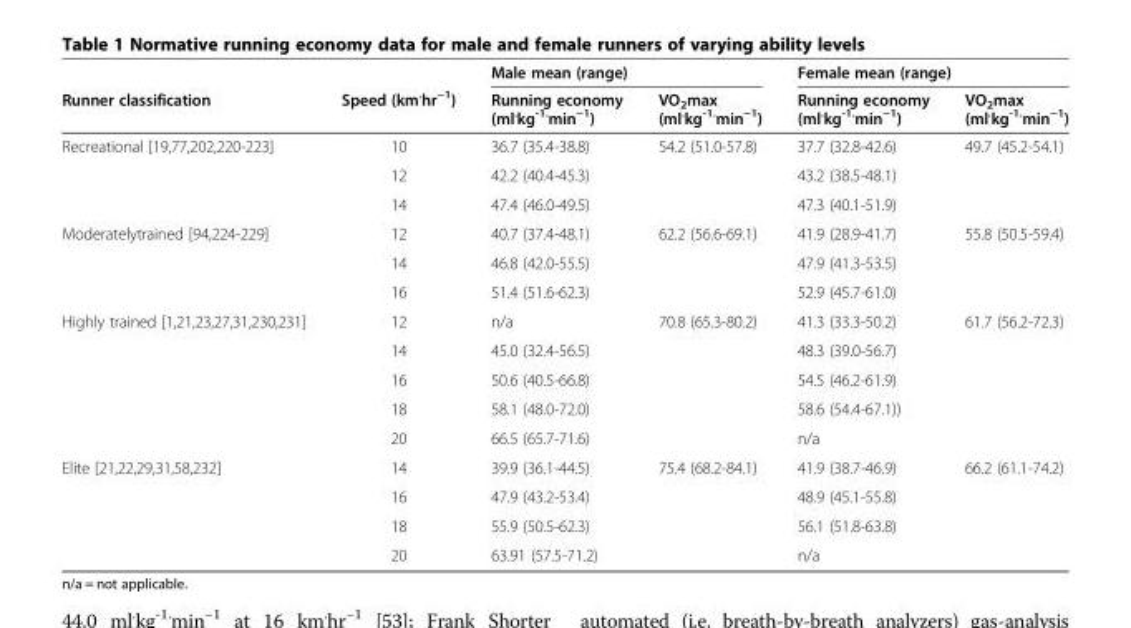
<table><thead><tr><td rowspan="2">Runner classification</td><td rowspan="2">Speed (km<sup>.</sup>hr<sup>−1</sup>)</td><td colspan="2">Male mean (range)</td><td colspan="2">Female mean (range)</td></tr><tr><td>Running economy (ml<sup>.</sup>kg<sup>-1.</sup>min<sup>−1</sup>)</td><td>VO<sub>2</sub>max (ml<sup>.</sup>kg<sup>-1.</sup>min<sup>−1</sup>)</td><td>Running economy (ml<sup>.</sup>kg<sup>-1.</sup>min<sup>−1</sup>)</td><td>VO<sub>2</sub>max (ml<sup>.</sup>kg<sup>-1.</sup>min<sup>−1</sup>)</td></tr></thead><tbody><tr><td rowspan="3">Recreational [19,77,202,220-223]</td><td>10</td><td>36.7 (35.4-38.8)</td><td rowspan="3">54.2 (51.0-57.8)</td><td>37.7 (32.8-42.6)</td><td rowspan="3">49.7 (45.2-54.1)</td></tr><tr><td>12</td><td>42.2 (40.4-45.3)</td><td>43.2 (38.5-48.1)</td></tr><tr><td>14</td><td>47.4 (46.0-49.5)</td><td>47.3 (40.1-51.9)</td></tr><tr><td rowspan="3">Moderatelytrained [94,224-229]</td><td>12</td><td>40.7 (37.4-48.1)</td><td rowspan="3">62.2 (56.6-69.1)</td><td>41.9 (28.9-41.7)</td><td rowspan="3">55.8 (50.5-59.4)</td></tr><tr><td>14</td><td>46.8 (42.0-55.5)</td><td>47.9 (41.3-53.5)</td></tr><tr><td>16</td><td>51.4 (51.6-62.3)</td><td>52.9 (45.7-61.0)</td></tr><tr><td rowspan="5">Highly trained [1,21,23,27,31,230,231]</td><td>12</td><td>n/a</td><td rowspan="5">70.8 (65.3-80.2)</td><td>41.3 (33.3-50.2)</td><td rowspan="5">61.7 (56.2-72.3)</td></tr><tr><td>14</td><td>45.0 (32.4-56.5)</td><td>48.3 (39.0-56.7)</td></tr><tr><td>16</td><td>50.6 (40.5-66.8)</td><td>54.5 (46.2-61.9)</td></tr><tr><td>18</td><td>58.1 (48.0-72.0)</td><td>58.6 (54.4-67.1))</td></tr><tr><td>20</td><td>66.5 (65.7-71.6)</td><td>n/a</td></tr><tr><td rowspan="4">Elite [21,22,29,31,58,232]</td><td>14</td><td>39.9 (36.1-44.5)</td><td rowspan="4">75.4 (68.2-84.1)</td><td>41.9 (38.7-46.9)</td><td rowspan="4">66.2 (61.1-74.2)</td></tr><tr><td>16</td><td>47.9 (43.2-53.4)</td><td>48.9 (45.1-55.8)</td></tr><tr><td>18</td><td>55.9 (50.5-62.3)</td><td>56.1 (51.8-63.8)</td></tr><tr><td>20</td><td>63.91 (57.5-71.2)</td><td>n/a</td></tr></tbody></table>